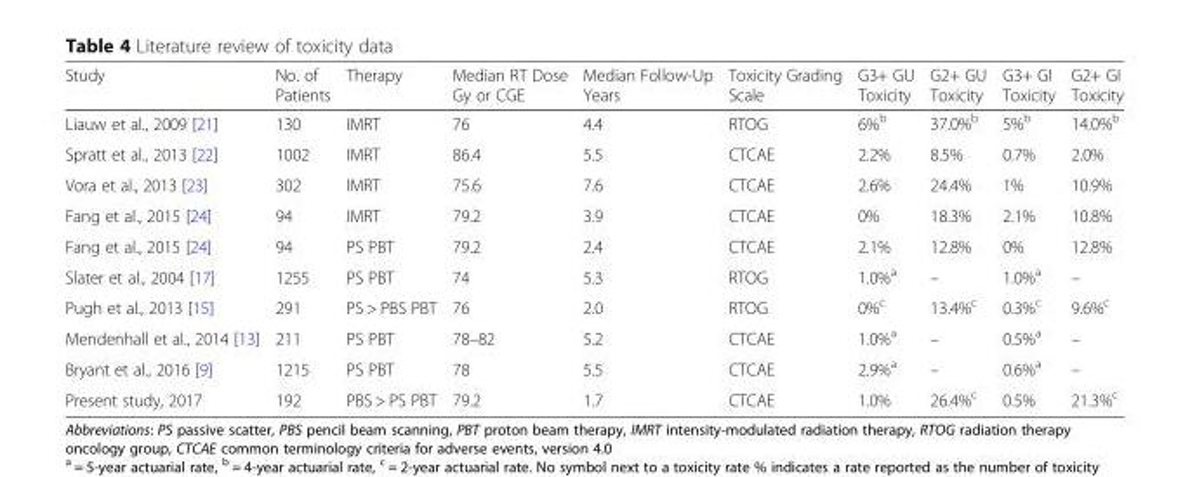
<table><thead><tr><td>Study</td><td>No. of Patients</td><td>Therapy</td><td>Median RT Dose Gy or CGE</td><td>Median Follow-Up Years</td><td>Toxicity Grading Scale</td><td>G3+ GU Toxicity</td><td>G2+ GU Toxicity</td><td>G3+ GI Toxicity</td><td>G2+ GI Toxicity</td></tr></thead><tbody><tr><td>Liauw et al., 2009 [21]</td><td>130</td><td>IMRT</td><td>76</td><td>4.4</td><td>RTOG</td><td>6%<sup>b</sup></td><td>37.0%<sup>b</sup></td><td>5%<sup>b</sup></td><td>14.0%<sup>b</sup></td></tr><tr><td>Spratt et al., 2013 [22]</td><td>1002</td><td>IMRT</td><td>86.4</td><td>5.5</td><td>CTCAE</td><td>2.2%</td><td>8.5%</td><td>0.7%</td><td>2.0%</td></tr><tr><td>Vora et al., 2013 [23]</td><td>302</td><td>IMRT</td><td>75.6</td><td>7.6</td><td>CTCAE</td><td>2.6%</td><td>24.4%</td><td>1%</td><td>10.9%</td></tr><tr><td>Fang et al., 2015 [24]</td><td>94</td><td>IMRT</td><td>79.2</td><td>3.9</td><td>CTCAE</td><td>0%</td><td>18.3%</td><td>2.1%</td><td>10.8%</td></tr><tr><td>Fang et al., 2015 [24]</td><td>94</td><td>PS PBT</td><td>79.2</td><td>2.4</td><td>CTCAE</td><td>2.1%</td><td>12.8%</td><td>0%</td><td>12.8%</td></tr><tr><td>Slater et al., 2004 [17]</td><td>1255</td><td>PS PBT</td><td>74</td><td>5.3</td><td>RTOG</td><td>1.0%<sup>a</sup></td><td>–</td><td>1.0%<sup>a</sup></td><td>–</td></tr><tr><td>Pugh et al., 2013 [15]</td><td>291</td><td>PS &gt; PBS PBT</td><td>76</td><td>2.0</td><td>RTOG</td><td>0%<sup>c</sup></td><td>13.4%<sup>c</sup></td><td>0.3%<sup>c</sup></td><td>9.6%<sup>c</sup></td></tr><tr><td>Mendenhall et al., 2014 [13]</td><td>211</td><td>PS PBT</td><td>78–82</td><td>5.2</td><td>CTCAE</td><td>1.0%<sup>a</sup></td><td>–</td><td>0.5%<sup>a</sup></td><td>–</td></tr><tr><td>Bryant et al., 2016 [9]</td><td>1215</td><td>PS PBT</td><td>78</td><td>5.5</td><td>CTCAE</td><td>2.9%<sup>a</sup></td><td>–</td><td>0.6%<sup>a</sup></td><td>–</td></tr><tr><td>Present study, 2017</td><td>192</td><td>PBS &gt; PS PBT</td><td>79.2</td><td>1.7</td><td>CTCAE</td><td>1.0%</td><td>26.4%<sup>c</sup></td><td>0.5%</td><td>21.3%<sup>c</sup></td></tr></tbody></table>